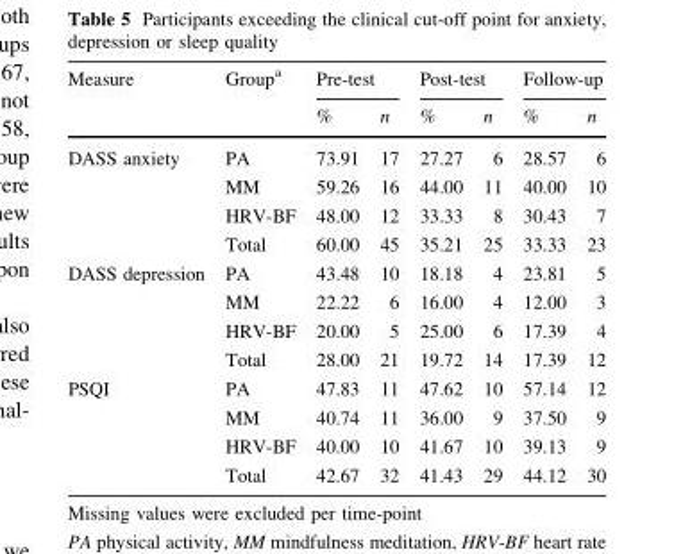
<table><thead><tr><td rowspan="2">Measure</td><td rowspan="2">Group<sup>a</sup></td><td colspan="2">Pre-test</td><td colspan="2">Post-test</td><td colspan="2">Follow-up</td></tr><tr><td>%</td><td>n</td><td>%</td><td>n</td><td>%</td><td>n</td></tr></thead><tbody><tr><td rowspan="4">DASS anxiety</td><td>PA</td><td>73.91</td><td>17</td><td>27.27</td><td>6</td><td>28.57</td><td>6</td></tr><tr><td>MM</td><td>59.26</td><td>16</td><td>44.00</td><td>11</td><td>40.00</td><td>10</td></tr><tr><td>HRV-BF</td><td>48.00</td><td>12</td><td>33.33</td><td>8</td><td>30.43</td><td>7</td></tr><tr><td>Total</td><td>60.00</td><td>45</td><td>35.21</td><td>25</td><td>33.33</td><td>23</td></tr><tr><td rowspan="4">DASS depression</td><td>PA</td><td>43.48</td><td>10</td><td>18.18</td><td>4</td><td>23.81</td><td>5</td></tr><tr><td>MM</td><td>22.22</td><td>6</td><td>16.00</td><td>4</td><td>12.00</td><td>3</td></tr><tr><td>HRV-BF</td><td>20.00</td><td>5</td><td>25.00</td><td>6</td><td>17.39</td><td>4</td></tr><tr><td>Total</td><td>28.00</td><td>21</td><td>19.72</td><td>14</td><td>17.39</td><td>12</td></tr><tr><td rowspan="4">PSQI</td><td>PA</td><td>47.83</td><td>11</td><td>47.62</td><td>10</td><td>57.14</td><td>12</td></tr><tr><td>MM</td><td>40.74</td><td>11</td><td>36.00</td><td>9</td><td>37.50</td><td>9</td></tr><tr><td>HRV-BF</td><td>40.00</td><td>10</td><td>41.67</td><td>10</td><td>39.13</td><td>9</td></tr><tr><td>Total</td><td>42.67</td><td>32</td><td>41.43</td><td>29</td><td>44.12</td><td>30</td></tr></tbody></table>